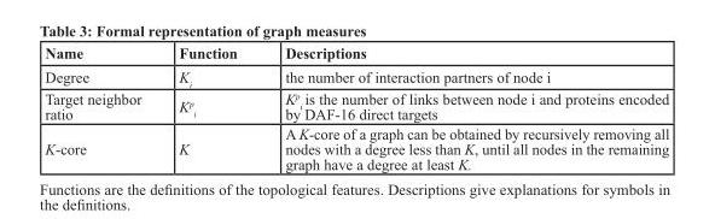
<table><thead><tr><td>Name</td><td>Function</td><td>Descriptions</td></tr></thead><tbody><tr><td>Degree</td><td>K<sub>i</sub></td><td>the number of interaction partners of node i</td></tr><tr><td>Target neighbor ratio</td><td>K<sup>p</sup> <sub>i</sub></td><td>K<sup>p</sup> <sub>i</sub> is the number of links between node i and proteins encoded by DAF-16 direct targets</td></tr><tr><td>K-core</td><td>K</td><td>A K-core of a graph can be obtained by recursively removing all nodes with a degree less than K, until all nodes in the remaining graph have a degree at least K.</td></tr></tbody></table>